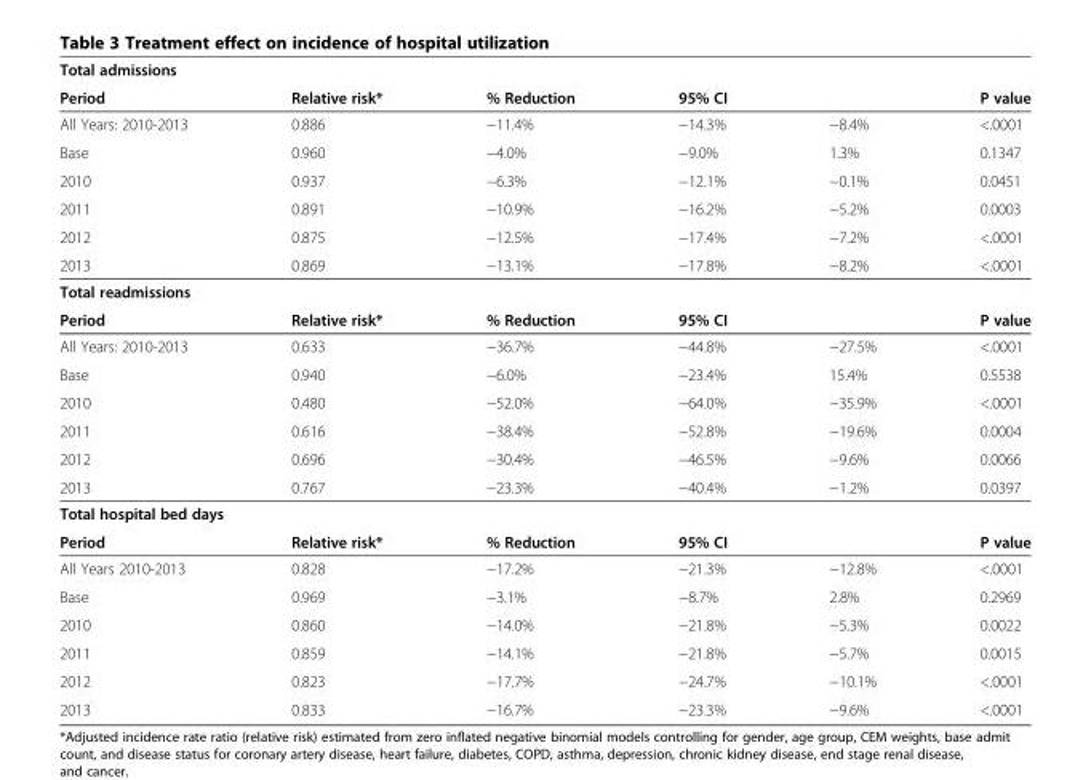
<table><tbody><tr><td colspan="6">Total admissions</td></tr><tr><td>Period</td><td>Relative risk*</td><td>% Reduction</td><td colspan="2">95% CI</td><td>P value</td></tr><tr><td>All Years: 2010-2013</td><td>0.886</td><td>−11.4%</td><td>−14.3%</td><td>−8.4%</td><td>&lt;.0001</td></tr><tr><td>Base</td><td>0.960</td><td>−4.0%</td><td>−9.0%</td><td>1.3%</td><td>0.1347</td></tr><tr><td>2010</td><td>0.937</td><td>−6.3%</td><td>−12.1%</td><td>−0.1%</td><td>0.0451</td></tr><tr><td>2011</td><td>0.891</td><td>−10.9%</td><td>−16.2%</td><td>−5.2%</td><td>0.0003</td></tr><tr><td>2012</td><td>0.875</td><td>−12.5%</td><td>−17.4%</td><td>−7.2%</td><td>&lt;.0001</td></tr><tr><td>2013</td><td>0.869</td><td>−13.1%</td><td>−17.8%</td><td>−8.2%</td><td>&lt;.0001</td></tr><tr><td colspan="6">Total readmissions</td></tr><tr><td>Period</td><td>Relative risk*</td><td>% Reduction</td><td colspan="2">95% CI</td><td>P value</td></tr><tr><td>All Years: 2010-2013</td><td>0.633</td><td>−36.7%</td><td>−44.8%</td><td>−27.5%</td><td>&lt;.0001</td></tr><tr><td>Base</td><td>0.940</td><td>−6.0%</td><td>−23.4%</td><td>15.4%</td><td>0.5538</td></tr><tr><td>2010</td><td>0.480</td><td>−52.0%</td><td>−64.0%</td><td>−35.9%</td><td>&lt;.0001</td></tr><tr><td>2011</td><td>0.616</td><td>−38.4%</td><td>−52.8%</td><td>−19.6%</td><td>0.0004</td></tr><tr><td>2012</td><td>0.696</td><td>−30.4%</td><td>−46.5%</td><td>−9.6%</td><td>0.0066</td></tr><tr><td>2013</td><td>0.767</td><td>−23.3%</td><td>−40.4%</td><td>−1.2%</td><td>0.0397</td></tr><tr><td colspan="6">Total hospital bed days</td></tr><tr><td>Period</td><td>Relative risk*</td><td>% Reduction</td><td colspan="2">95% CI</td><td>P value</td></tr><tr><td>All Years 2010-2013</td><td>0.828</td><td>−17.2%</td><td>−21.3%</td><td>−12.8%</td><td>&lt;.0001</td></tr><tr><td>Base</td><td>0.969</td><td>−3.1%</td><td>−8.7%</td><td>2.8%</td><td>0.2969</td></tr><tr><td>2010</td><td>0.860</td><td>−14.0%</td><td>−21.8%</td><td>−5.3%</td><td>0.0022</td></tr><tr><td>2011</td><td>0.859</td><td>−14.1%</td><td>−21.8%</td><td>−5.7%</td><td>0.0015</td></tr><tr><td>2012</td><td>0.823</td><td>−17.7%</td><td>−24.7%</td><td>−10.1%</td><td>&lt;.0001</td></tr><tr><td>2013</td><td>0.833</td><td>−16.7%</td><td>−23.3%</td><td>−9.6%</td><td>&lt;.0001</td></tr></tbody></table>